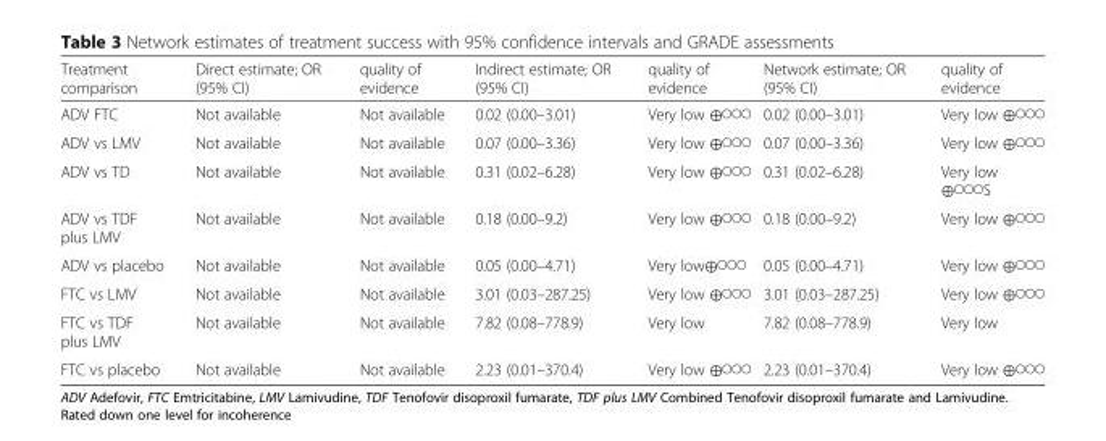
<table><thead><tr><td>Treatment comparison</td><td>Direct estimate; OR (95% CI)</td><td>quality of evidence</td><td>Indirect estimate; OR (95% CI)</td><td>quality of evidence</td><td>Network estimate; OR (95% CI)</td><td>quality of evidence</td></tr></thead><tbody><tr><td>ADV FTC</td><td>Not available</td><td>Not available</td><td>0.02 (0.00–3.01)</td><td>Very low ⊕◯◯◯</td><td>0.02 (0.00–3.01)</td><td>Very low ⊕◯◯◯</td></tr><tr><td>ADV vs LMV</td><td>Not available</td><td>Not available</td><td>0.07 (0.00–3.36)</td><td>Very low ⊕◯◯◯</td><td>0.07 (0.00–3.36)</td><td>Very low ⊕◯◯◯</td></tr><tr><td>ADV vs TD</td><td>Not available</td><td>Not available</td><td>0.31 (0.02–6.28)</td><td>Very low ⊕◯◯◯</td><td>0.31 (0.02–6.28)</td><td>Very low ⊕◯◯◯S</td></tr><tr><td>ADV vs TDF plus LMV</td><td>Not available</td><td>Not available</td><td>0.18 (0.00–9.2)</td><td>Very low ⊕◯◯◯</td><td>0.18 (0.00–9.2)</td><td>Very low ⊕◯◯◯</td></tr><tr><td>ADV vs placebo</td><td>Not available</td><td>Not available</td><td>0.05 (0.00–4.71)</td><td>Very low⊕◯◯◯</td><td>0.05 (0.00–4.71)</td><td>Very low ⊕◯◯◯</td></tr><tr><td>FTC vs LMV</td><td>Not available</td><td>Not available</td><td>3.01 (0.03–287.25)</td><td>Very low ⊕◯◯◯</td><td>3.01 (0.03–287.25)</td><td>Very low ⊕◯◯◯</td></tr><tr><td>FTC vs TDF plus LMV</td><td>Not available</td><td>Not available</td><td>7.82 (0.08–778.9)</td><td>Very low</td><td>7.82 (0.08–778.9)</td><td>Very low</td></tr><tr><td>FTC vs placebo</td><td>Not available</td><td>Not available</td><td>2.23 (0.01–370.4)</td><td>Very low ⊕◯◯◯</td><td>2.23 (0.01–370.4)</td><td>Very low ⊕◯◯◯</td></tr></tbody></table>